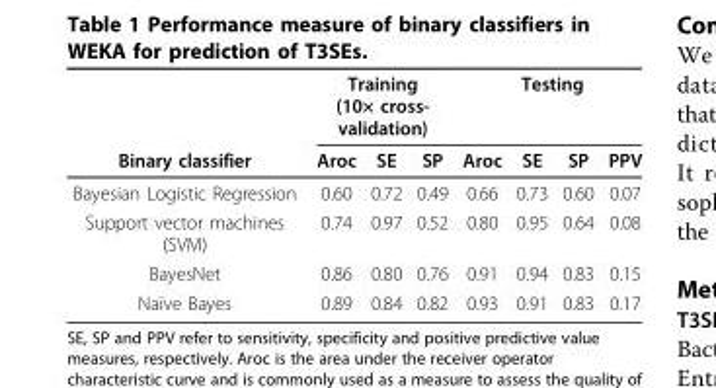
<table><thead><tr><td rowspan="2">Binary classifier</td><td colspan="3">Training (10× cross- validation)</td><td colspan="4">Testing</td></tr><tr><td>Aroc</td><td>SE</td><td>SP</td><td>Aroc</td><td>SE</td><td>SP</td><td>PPV</td></tr></thead><tbody><tr><td>Bayesian Logistic Regression</td><td>0.60</td><td>0.72</td><td>0.49</td><td>0.66</td><td>0.73</td><td>0.60</td><td>0.07</td></tr><tr><td>Support vector machines (SVM)</td><td>0.74</td><td>0.97</td><td>0.52</td><td>0.80</td><td>0.95</td><td>0.64</td><td>0.08</td></tr><tr><td>BayesNet</td><td>0.86</td><td>0.80</td><td>0.76</td><td>0.91</td><td>0.94</td><td>0.83</td><td>0.15</td></tr><tr><td>Naïve Bayes</td><td>0.89</td><td>0.84</td><td>0.82</td><td>0.93</td><td>0.91</td><td>0.83</td><td>0.17</td></tr></tbody></table>